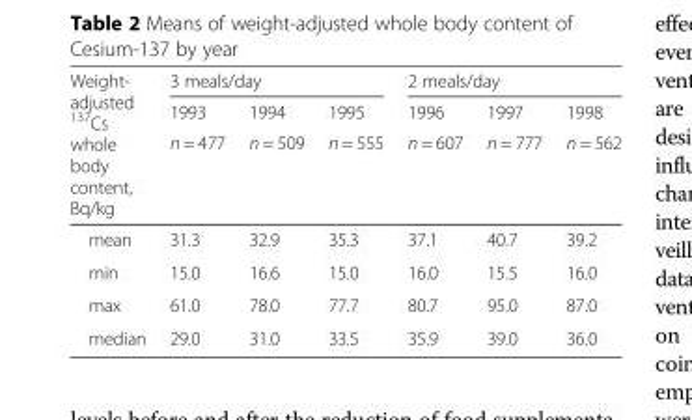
<table><thead><tr><td rowspan="3">Weight- adjusted <sup>137</sup>Cs whole body content, Bq/kg</td><td colspan="3">3 meals/day</td><td colspan="3">2 meals/day</td></tr><tr><td rowspan="2">1993 n = 477</td><td rowspan="2">1994 n = 509</td><td rowspan="2">1995 n = 555</td><td rowspan="2">1996 n = 607</td><td rowspan="2">1997 n = 777</td><td rowspan="2">1998 n = 562</td></tr><tr></tr></thead><tbody><tr><td>mean</td><td>31.3</td><td>32.9</td><td>35.3</td><td>37.1</td><td>40.7</td><td>39.2</td></tr><tr><td>min</td><td>15.0</td><td>16.6</td><td>15.0</td><td>16.0</td><td>15.5</td><td>16.0</td></tr><tr><td>max</td><td>61.0</td><td>78.0</td><td>77.7</td><td>80.7</td><td>95.0</td><td>87.0</td></tr><tr><td>median</td><td>29.0</td><td>31.0</td><td>33.5</td><td>35.9</td><td>39.0</td><td>36.0</td></tr></tbody></table>